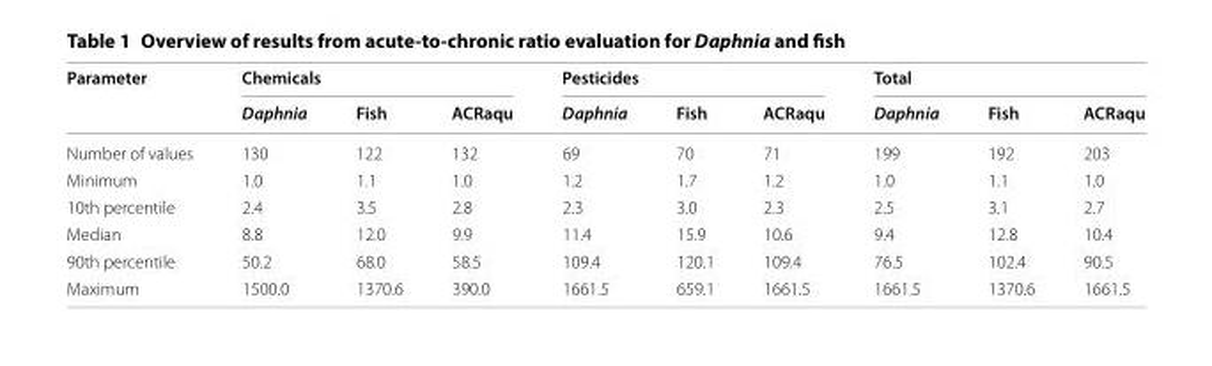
<table><thead><tr><td rowspan="2">Parameter</td><td colspan="3">Chemicals</td><td colspan="3">Pesticides</td><td colspan="3">Total</td></tr><tr><td>Daphnia</td><td>Fish</td><td>ACRaqu</td><td>Daphnia</td><td>Fish</td><td>ACRaqu</td><td>Daphnia</td><td>Fish</td><td>ACRaqu</td></tr></thead><tbody><tr><td>Number of values</td><td>130</td><td>122</td><td>132</td><td>69</td><td>70</td><td>71</td><td>199</td><td>192</td><td>203</td></tr><tr><td>Minimum</td><td>1.0</td><td>1.1</td><td>1.0</td><td>1.2</td><td>1.7</td><td>1.2</td><td>1.0</td><td>1.1</td><td>1.0</td></tr><tr><td>10th percentile</td><td>2.4</td><td>3.5</td><td>2.8</td><td>2.3</td><td>3.0</td><td>2.3</td><td>2.5</td><td>3.1</td><td>2.7</td></tr><tr><td>Median</td><td>8.8</td><td>12.0</td><td>9.9</td><td>11.4</td><td>15.9</td><td>10.6</td><td>9.4</td><td>12.8</td><td>10.4</td></tr><tr><td>90th percentile</td><td>50.2</td><td>68.0</td><td>58.5</td><td>109.4</td><td>120.1</td><td>109.4</td><td>76.5</td><td>102.4</td><td>90.5</td></tr><tr><td>Maximum</td><td>1500.0</td><td>1370.6</td><td>390.0</td><td>1661.5</td><td>659.1</td><td>1661.5</td><td>1661.5</td><td>1370.6</td><td>1661.5</td></tr></tbody></table>